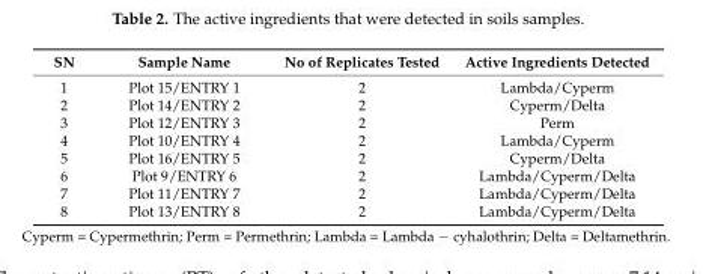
<table><thead><tr><td>SN</td><td>Sample Name</td><td>No of Replicates Tested</td><td>Active Ingredients Detected</td></tr></thead><tbody><tr><td>1</td><td>Plot 15/ENTRY 1</td><td>2</td><td>Lambda/Cyperm</td></tr><tr><td>2</td><td>Plot 14/ENTRY 2</td><td>2</td><td>Cyperm/Delta</td></tr><tr><td>3</td><td>Plot 12/ENTRY 3</td><td>2</td><td>Perm</td></tr><tr><td>4</td><td>Plot 10/ENTRY 4</td><td>2</td><td>Lambda/Cyperm</td></tr><tr><td>5</td><td>Plot 16/ENTRY 5</td><td>2</td><td>Cyperm/Delta</td></tr><tr><td>6</td><td>Plot 9/ENTRY 6</td><td>2</td><td>Lambda/Cyperm/Delta</td></tr><tr><td>7</td><td>Plot 11/ENTRY 7</td><td>2</td><td>Lambda/Cyperm/Delta</td></tr><tr><td>8</td><td>Plot 13/ENTRY 8</td><td>2</td><td>Lambda/Cyperm/Delta</td></tr></tbody></table>